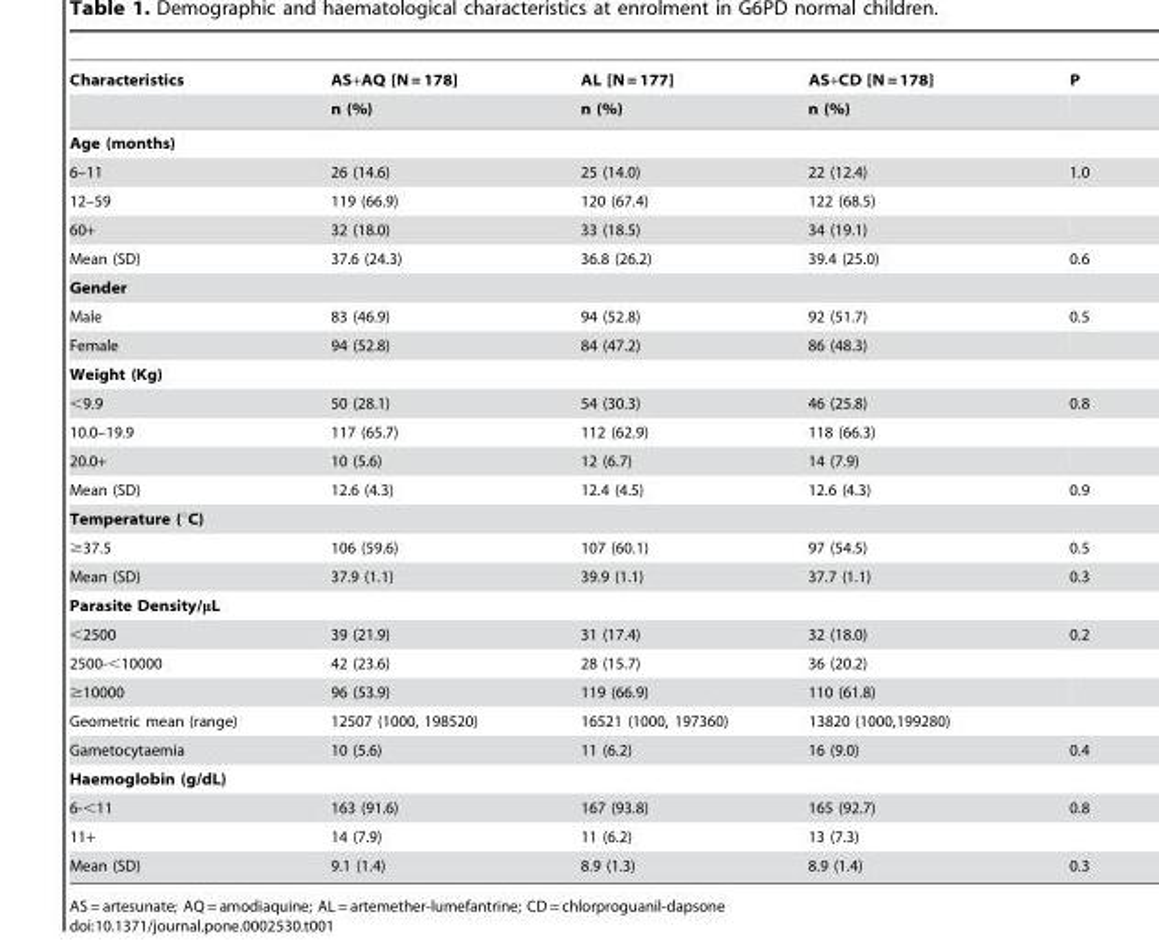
<table><thead><tr><td rowspan="2">Characteristics</td><td rowspan="2">AS+AQ [N = 178] n (%)</td><td rowspan="2">AL [N = 177] n (%)</td><td rowspan="2">AS+CD [N = 178] n (%)</td><td rowspan="2">P</td></tr><tr></tr></thead><tbody><tr><td colspan="5">Age (months)</td></tr><tr><td>6–11</td><td>26 (14.6)</td><td>25 (14.0)</td><td>22 (12.4)</td><td>1.0</td></tr><tr><td>12–59</td><td>119 (66.9)</td><td>120 (67.4)</td><td>122 (68.5)</td><td></td></tr><tr><td>60+</td><td>32 (18.0)</td><td>33 (18.5)</td><td>34 (19.1)</td><td></td></tr><tr><td>Mean (SD)</td><td>37.6 (24.3)</td><td>36.8 (26.2)</td><td>39.4 (25.0)</td><td>0.6</td></tr><tr><td colspan="5">Gender</td></tr><tr><td>Male</td><td>83 (46.9)</td><td>94 (52.8)</td><td>92 (51.7)</td><td>0.5</td></tr><tr><td>Female</td><td>94 (52.8)</td><td>84 (47.2)</td><td>86 (48.3)</td><td></td></tr><tr><td colspan="5">Weight (Kg)</td></tr><tr><td>&lt;9.9</td><td>50 (28.1)</td><td>54 (30.3)</td><td>46 (25.8)</td><td>0.8</td></tr><tr><td>10.0–19.9</td><td>117 (65.7)</td><td>112 (62.9)</td><td>118 (66.3)</td><td></td></tr><tr><td>20.0+</td><td>10 (5.6)</td><td>12 (6.7)</td><td>14 (7.9)</td><td></td></tr><tr><td>Mean (SD)</td><td>12.6 (4.3)</td><td>12.4 (4.5)</td><td>12.6 (4.3)</td><td>0.9</td></tr><tr><td colspan="5">Temperature (°C)</td></tr><tr><td>≥37.5</td><td>106 (59.6)</td><td>107 (60.1)</td><td>97 (54.5)</td><td>0.5</td></tr><tr><td>Mean (SD)</td><td>37.9 (1.1)</td><td>39.9 (1.1)</td><td>37.7 (1.1)</td><td>0.3</td></tr><tr><td colspan="5">Parasite Density/μL</td></tr><tr><td>&lt;2500</td><td>39 (21.9)</td><td>31 (17.4)</td><td>32 (18.0)</td><td>0.2</td></tr><tr><td>2500-&lt;10000</td><td>42 (23.6)</td><td>28 (15.7)</td><td>36 (20.2)</td><td></td></tr><tr><td>≥10000</td><td>96 (53.9)</td><td>119 (66.9)</td><td>110 (61.8)</td><td></td></tr><tr><td>Geometric mean (range)</td><td>12507 (1000, 198520)</td><td>16521 (1000, 197360)</td><td>13820 (1000,199280)</td><td></td></tr><tr><td>Gametocytaemia</td><td>10 (5.6)</td><td>11 (6.2)</td><td>16 (9.0)</td><td>0.4</td></tr><tr><td colspan="5">Haemoglobin (g/dL)</td></tr><tr><td>6-&lt;11</td><td>163 (91.6)</td><td>167 (93.8)</td><td>165 (92.7)</td><td>0.8</td></tr><tr><td>11+</td><td>14 (7.9)</td><td>11 (6.2)</td><td>13 (7.3)</td><td></td></tr><tr><td>Mean (SD)</td><td>9.1 (1.4)</td><td>8.9 (1.3)</td><td>8.9 (1.4)</td><td>0.3</td></tr></tbody></table>